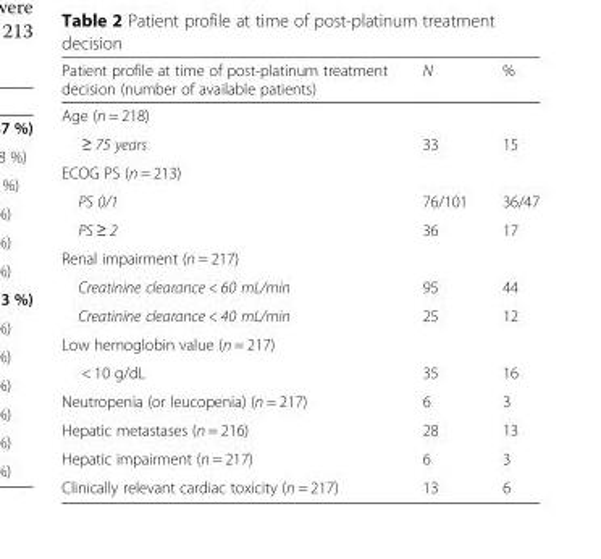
<table><thead><tr><td>Patient profile at time of post-platinum treatment decision (number of available patients)</td><td>N</td><td>%</td></tr></thead><tbody><tr><td colspan="3">Age (n = 218)</td></tr><tr><td>≥ 75 years</td><td>33</td><td>15</td></tr><tr><td colspan="3">ECOG PS (n = 213)</td></tr><tr><td>PS 0/1</td><td>76/101</td><td>36/47</td></tr><tr><td>PS ≥ 2</td><td>36</td><td>17</td></tr><tr><td colspan="3">Renal impairment (n = 217)</td></tr><tr><td>Creatinine clearance &lt; 60 mL/min</td><td>95</td><td>44</td></tr><tr><td>Creatinine clearance &lt; 40 mL/min</td><td>25</td><td>12</td></tr><tr><td colspan="3">Low hemoglobin value (n = 217)</td></tr><tr><td>&lt; 10 g/dL</td><td>35</td><td>16</td></tr><tr><td>Neutropenia (or leucopenia) (n = 217)</td><td>6</td><td>3</td></tr><tr><td>Hepatic metastases (n = 216)</td><td>28</td><td>13</td></tr><tr><td>Hepatic impairment (n = 217)</td><td>6</td><td>3</td></tr><tr><td>Clinically relevant cardiac toxicity (n = 217)</td><td>13</td><td>6</td></tr></tbody></table>